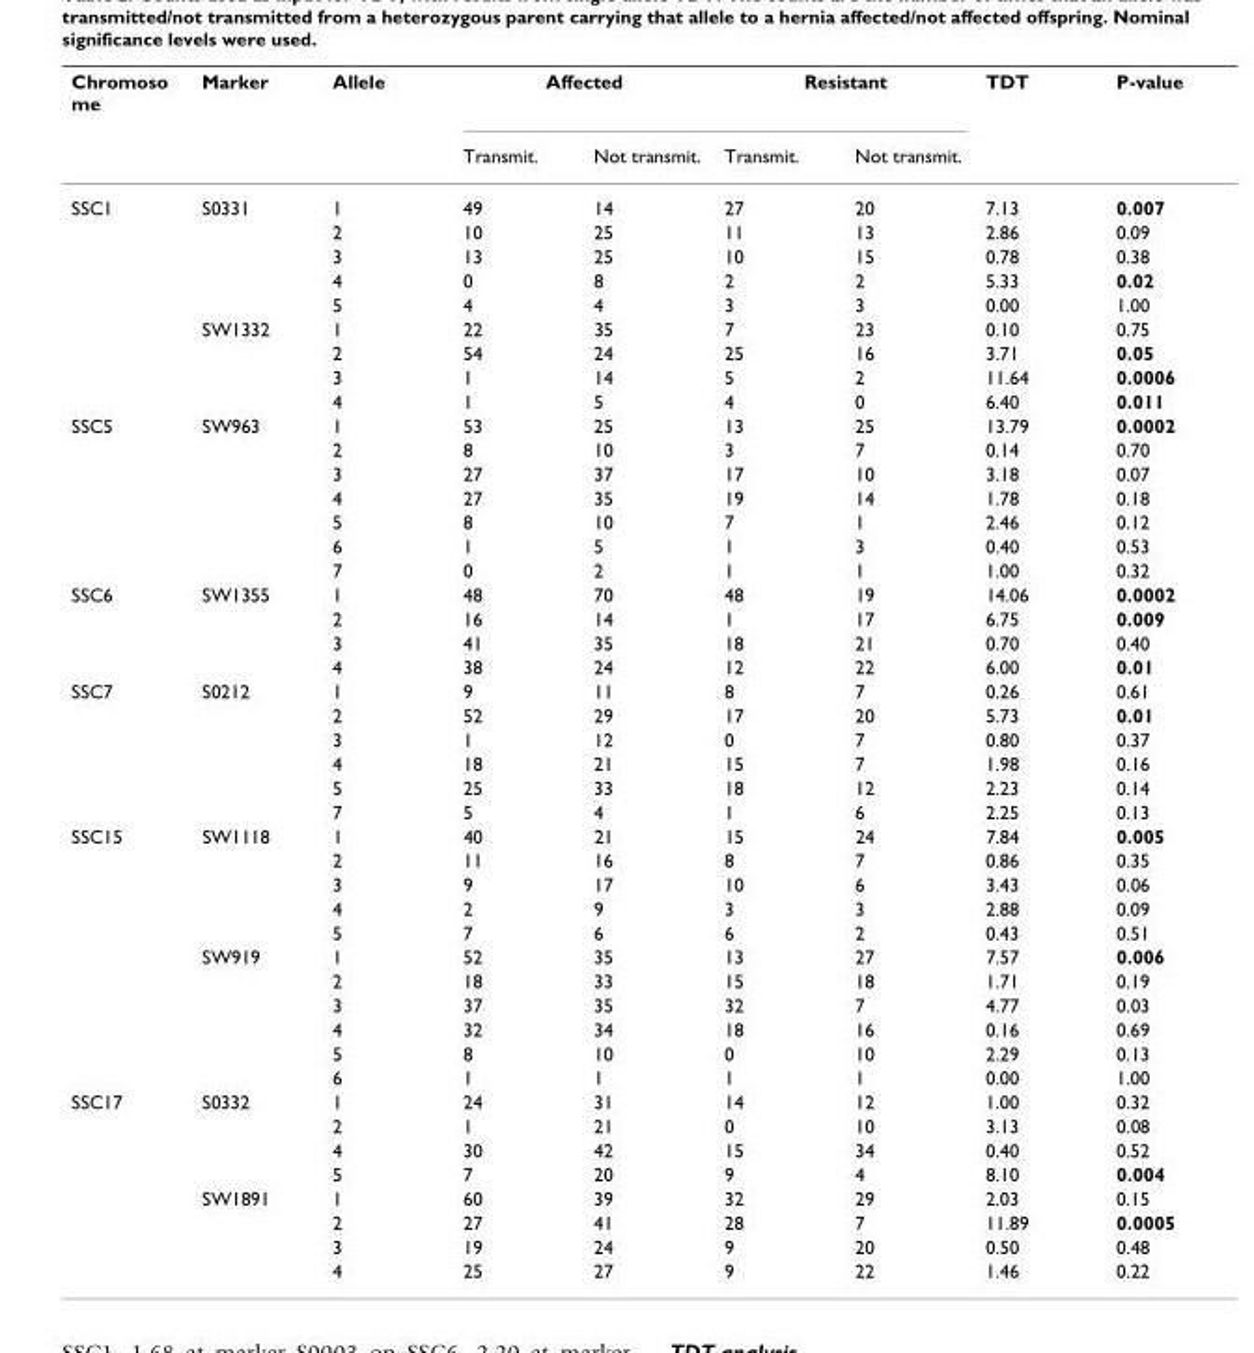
<table><thead><tr><td rowspan="2">Chromoso me</td><td rowspan="2">Marker</td><td rowspan="2">Allele</td><td colspan="2">Affected</td><td colspan="2">Resistant</td><td rowspan="2">TDT</td><td rowspan="2">P-value</td></tr><tr><td>Transmit.</td><td>Not transmit.</td><td>Transmit.</td><td>Not transmit.</td></tr></thead><tbody><tr><td rowspan="9">SSC1</td><td>S0331</td><td>1</td><td>49</td><td>14</td><td>27</td><td>20</td><td>7.13</td><td>0.007</td></tr><tr><td></td><td>2</td><td>10</td><td>25</td><td>11</td><td>13</td><td>2.86</td><td>0.09</td></tr><tr><td></td><td>3</td><td>13</td><td>25</td><td>10</td><td>15</td><td>0.78</td><td>0.38</td></tr><tr><td></td><td>4</td><td>0</td><td>8</td><td>2</td><td>2</td><td>5.33</td><td>0.02</td></tr><tr><td></td><td>5</td><td>4</td><td>4</td><td>3</td><td>3</td><td>0.00</td><td>1.00</td></tr><tr><td>SW1332</td><td>1</td><td>22</td><td>35</td><td>7</td><td>23</td><td>0.10</td><td>0.75</td></tr><tr><td></td><td>2</td><td>54</td><td>24</td><td>25</td><td>16</td><td>3.71</td><td>0.05</td></tr><tr><td></td><td>3</td><td>1</td><td>14</td><td>5</td><td>2</td><td>11.64</td><td>0.0006</td></tr><tr><td></td><td>4</td><td>1</td><td>5</td><td>4</td><td>0</td><td>6.40</td><td>0.011</td></tr><tr><td rowspan="7">SSC5</td><td>SW963</td><td>1</td><td>53</td><td>25</td><td>13</td><td>25</td><td>13.79</td><td>0.0002</td></tr><tr><td></td><td>2</td><td>8</td><td>10</td><td>3</td><td>7</td><td>0.14</td><td>0.70</td></tr><tr><td></td><td>3</td><td>27</td><td>37</td><td>17</td><td>10</td><td>3.18</td><td>0.07</td></tr><tr><td></td><td>4</td><td>27</td><td>35</td><td>19</td><td>14</td><td>1.78</td><td>0.18</td></tr><tr><td></td><td>5</td><td>8</td><td>10</td><td>7</td><td>1</td><td>2.46</td><td>0.12</td></tr><tr><td></td><td>6</td><td>1</td><td>5</td><td>1</td><td>3</td><td>0.40</td><td>0.53</td></tr><tr><td></td><td>7</td><td>0</td><td>2</td><td>1</td><td>1</td><td>1.00</td><td>0.32</td></tr><tr><td rowspan="4">SSC6</td><td>SW1355</td><td>1</td><td>48</td><td>70</td><td>48</td><td>19</td><td>14.06</td><td>0.0002</td></tr><tr><td></td><td>2</td><td>16</td><td>14</td><td>1</td><td>17</td><td>6.75</td><td>0.009</td></tr><tr><td></td><td>3</td><td>41</td><td>35</td><td>18</td><td>21</td><td>0.70</td><td>0.40</td></tr><tr><td></td><td>4</td><td>38</td><td>24</td><td>12</td><td>22</td><td>6.00</td><td>0.01</td></tr><tr><td rowspan="6">SSC7</td><td>S0212</td><td>1</td><td>9</td><td>11</td><td>8</td><td>7</td><td>0.26</td><td>0.61</td></tr><tr><td></td><td>2</td><td>52</td><td>29</td><td>17</td><td>20</td><td>5.73</td><td>0.01</td></tr><tr><td></td><td>3</td><td>1</td><td>12</td><td>0</td><td>7</td><td>0.80</td><td>0.37</td></tr><tr><td></td><td>4</td><td>18</td><td>21</td><td>15</td><td>7</td><td>1.98</td><td>0.16</td></tr><tr><td></td><td>5</td><td>25</td><td>33</td><td>18</td><td>12</td><td>2.23</td><td>0.14</td></tr><tr><td></td><td>7</td><td>5</td><td>4</td><td>1</td><td>6</td><td>2.25</td><td>0.13</td></tr><tr><td rowspan="11">SSC15</td><td>SW1118</td><td>1</td><td>40</td><td>21</td><td>15</td><td>24</td><td>7.84</td><td>0.005</td></tr><tr><td></td><td>2</td><td>11</td><td>16</td><td>8</td><td>7</td><td>0.86</td><td>0.35</td></tr><tr><td></td><td>3</td><td>9</td><td>17</td><td>10</td><td>6</td><td>3.43</td><td>0.06</td></tr><tr><td></td><td>4</td><td>2</td><td>9</td><td>3</td><td>3</td><td>2.88</td><td>0.09</td></tr><tr><td></td><td>5</td><td>7</td><td>6</td><td>6</td><td>2</td><td>0.43</td><td>0.51</td></tr><tr><td>SW919</td><td>1</td><td>52</td><td>35</td><td>13</td><td>27</td><td>7.57</td><td>0.006</td></tr><tr><td></td><td>2</td><td>18</td><td>33</td><td>15</td><td>18</td><td>1.71</td><td>0.19</td></tr><tr><td></td><td>3</td><td>37</td><td>35</td><td>32</td><td>7</td><td>4.77</td><td>0.03</td></tr><tr><td></td><td>4</td><td>32</td><td>34</td><td>18</td><td>16</td><td>0.16</td><td>0.69</td></tr><tr><td></td><td>5</td><td>8</td><td>10</td><td>0</td><td>10</td><td>2.29</td><td>0.13</td></tr><tr><td></td><td>6</td><td>1</td><td>1</td><td>1</td><td>1</td><td>0.00</td><td>1.00</td></tr><tr><td rowspan="8">SSC17</td><td>S0332</td><td>1</td><td>24</td><td>31</td><td>14</td><td>12</td><td>1.00</td><td>0.32</td></tr><tr><td></td><td>2</td><td>1</td><td>21</td><td>0</td><td>10</td><td>3.13</td><td>0.08</td></tr><tr><td></td><td>4</td><td>30</td><td>42</td><td>15</td><td>34</td><td>0.40</td><td>0.52</td></tr><tr><td></td><td>5</td><td>7</td><td>20</td><td>9</td><td>4</td><td>8.10</td><td>0.004</td></tr><tr><td>SW1891</td><td>1</td><td>60</td><td>39</td><td>32</td><td>29</td><td>2.03</td><td>0.15</td></tr><tr><td></td><td>2</td><td>27</td><td>41</td><td>28</td><td>7</td><td>11.89</td><td>0.0005</td></tr><tr><td></td><td>3</td><td>19</td><td>24</td><td>9</td><td>20</td><td>0.50</td><td>0.48</td></tr><tr><td></td><td>4</td><td>25</td><td>27</td><td>9</td><td>22</td><td>1.46</td><td>0.22</td></tr></tbody></table>